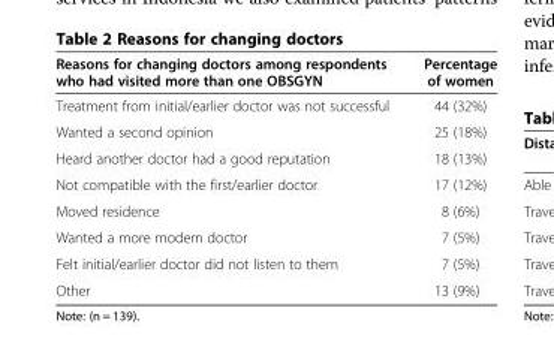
<table><thead><tr><td>Reasons for changing doctors among respondents who had visited more than one OBSGYN</td><td>Percentage of women</td></tr></thead><tbody><tr><td>Treatment from initial/earlier doctor was not successful</td><td>44 (32%)</td></tr><tr><td>Wanted a second opinion</td><td>25 (18%)</td></tr><tr><td>Heard another doctor had a good reputation</td><td>18 (13%)</td></tr><tr><td>Not compatible with the first/earlier doctor</td><td>17 (12%)</td></tr><tr><td>Moved residence</td><td>8 (6%)</td></tr><tr><td>Wanted a more modern doctor</td><td>7 (5%)</td></tr><tr><td>Felt initial/earlier doctor did not listen to them</td><td>7 (5%)</td></tr><tr><td>Other</td><td>13 (9%)</td></tr></tbody></table>